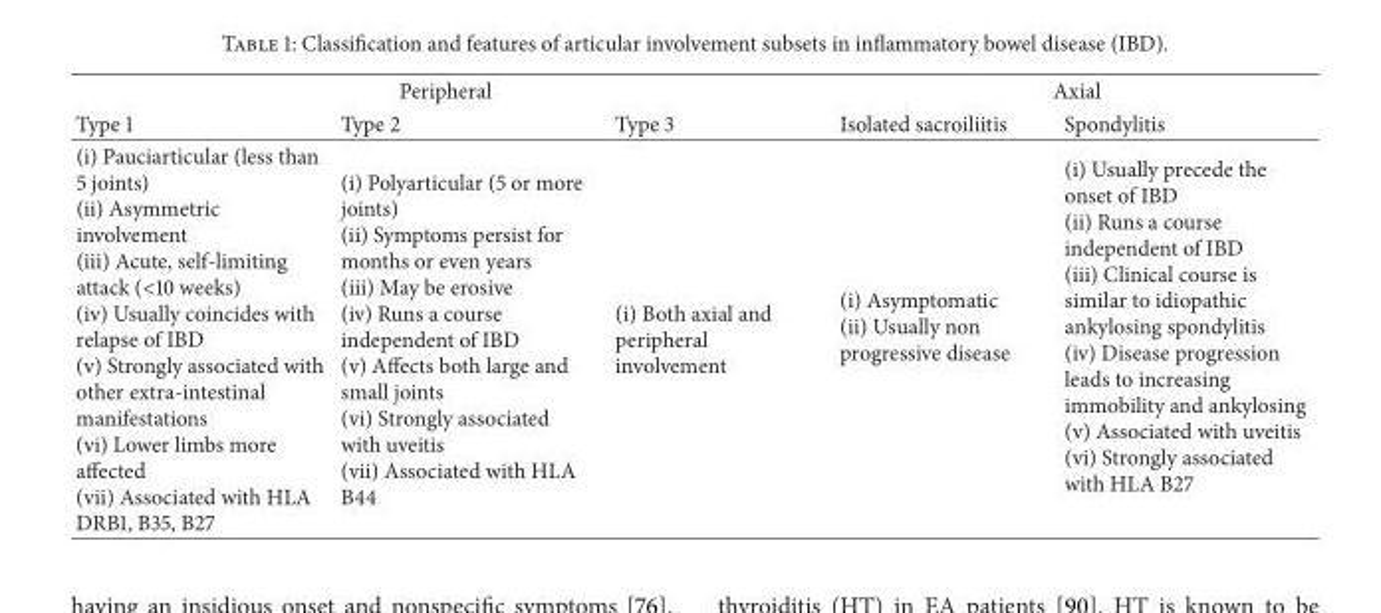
<table><thead><tr><td colspan="3">Peripheral</td><td colspan="2">Axial</td></tr><tr><td>Type 1</td><td>Type 2</td><td>Type 3</td><td>Isolated sacroiliitis</td><td>Spondylitis</td></tr></thead><tbody><tr><td>(i) Pauciarticular (less than 5 joints) (ii) Asymmetric involvement (iii) Acute, self-limiting attack (&lt;10 weeks) (iv) Usually coincides with relapse of IBD (v) Strongly associated with other extra-intestinal manifestations (vi) Lower limbs more affected (vii) Associated with HLA DRB1, B35, B27</td><td>(i) Polyarticular (5 or more joints) (ii) Symptoms persist for months or even years (iii) May be erosive (iv) Runs a course independent of IBD (v) Affects both large and small joints (vi) Strongly associated with uveitis (vii) Associated with HLA B44</td><td>(i) Both axial and peripheral involvement</td><td>(i) Asymptomatic (ii) Usually non progressive disease</td><td>(i) Usually precede the onset of IBD (ii) Runs a course independent of IBD (iii) Clinical course is similar to idiopathic ankylosing spondylitis (iv) Disease progression leads to increasing immobility and ankylosing (v) Associated with uveitis (vi) Strongly associated with HLA B27</td></tr></tbody></table>